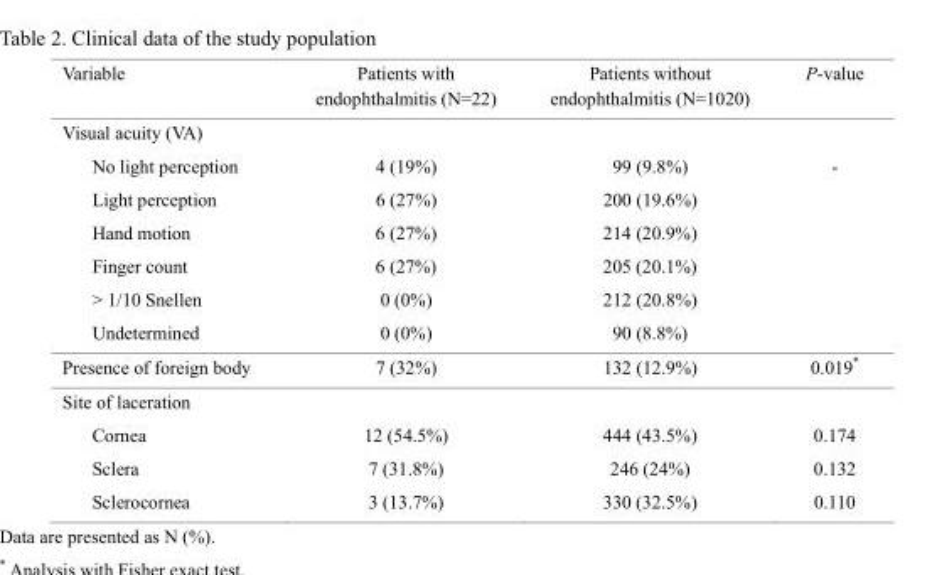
<table><thead><tr><td>Variable</td><td>Patients with endophthalmitis (N=22)</td><td>Patients without endophthalmitis (N=1020)</td><td>P-value</td></tr></thead><tbody><tr><td colspan="4">Visual acuity (VA)</td></tr><tr><td>No light perception</td><td>4 (19%)</td><td>99 (9.8%)</td><td>-</td></tr><tr><td>Light perception</td><td>6 (27%)</td><td>200 (19.6%)</td><td></td></tr><tr><td>Hand motion</td><td>6 (27%)</td><td>214 (20.9%)</td><td></td></tr><tr><td>Finger count</td><td>6 (27%)</td><td>205 (20.1%)</td><td></td></tr><tr><td>&gt; 1/10 Snellen</td><td>0 (0%)</td><td>212 (20.8%)</td><td></td></tr><tr><td>Undetermined</td><td>0 (0%)</td><td>90 (8.8%)</td><td></td></tr><tr><td>Presence of foreign body</td><td>7 (32%)</td><td>132 (12.9%)</td><td>0.019*</td></tr><tr><td colspan="4">Site of laceration</td></tr><tr><td>Cornea</td><td>12 (54.5%)</td><td>444 (43.5%)</td><td>0.174</td></tr><tr><td>Sclera</td><td>7 (31.8%)</td><td>246 (24%)</td><td>0.132</td></tr><tr><td>Sclerocornea</td><td>3 (13.7%)</td><td>330 (32.5%)</td><td>0.110</td></tr></tbody></table>